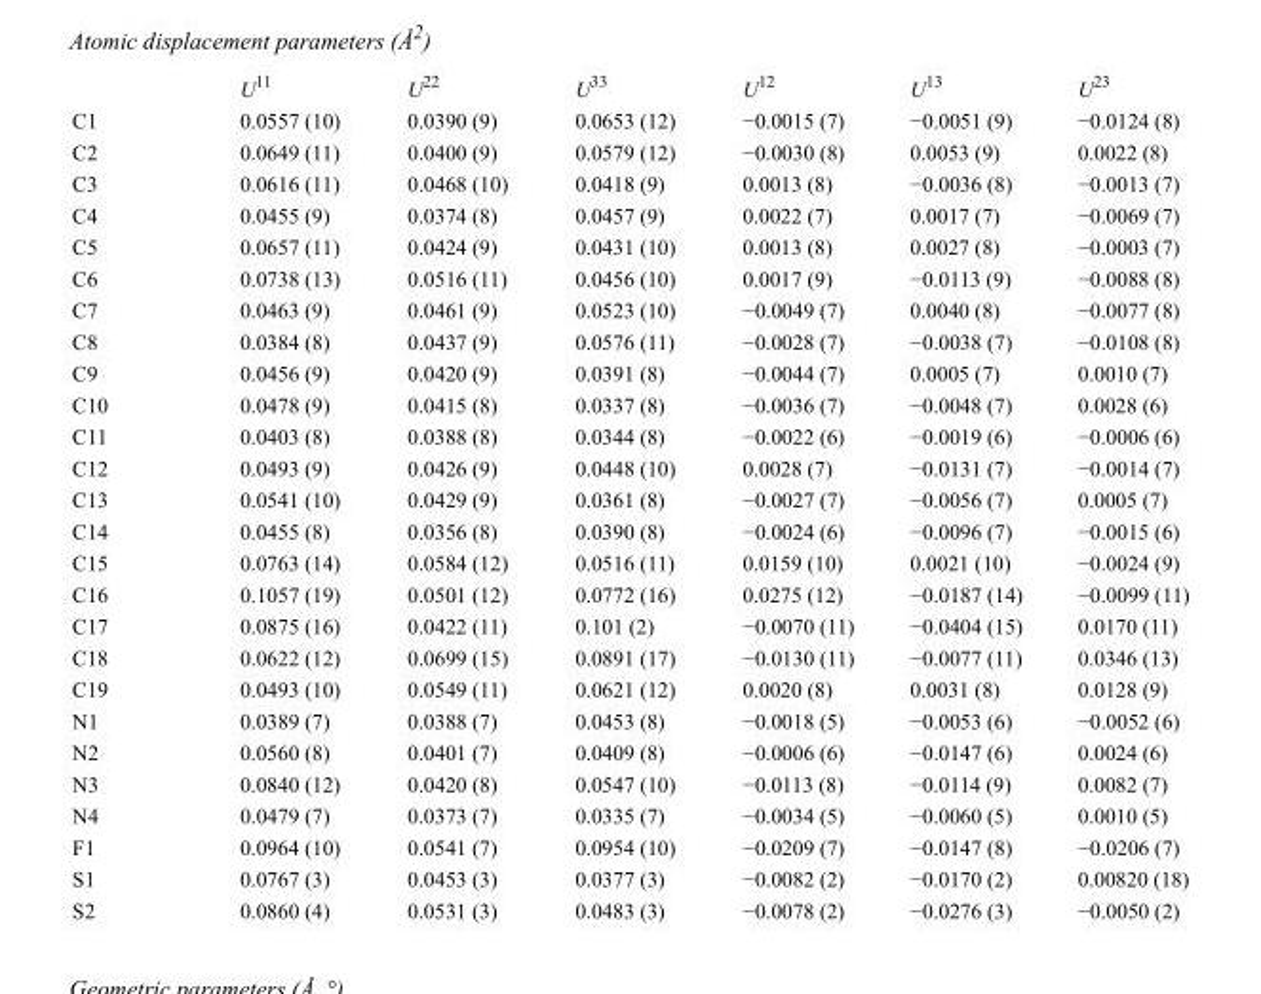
<table><thead><tr><td></td><td>U<sup>11</sup></td><td>U<sup>22</sup></td><td>U<sup>33</sup></td><td>U<sup>12</sup></td><td>U<sup>13</sup></td><td>U<sup>23</sup></td></tr></thead><tbody><tr><td>C1</td><td>0.0557 (10)</td><td>0.0390 (9)</td><td>0.0653 (12)</td><td>−0.0015 (7)</td><td>−0.0051 (9)</td><td>−0.0124 (8)</td></tr><tr><td>C2</td><td>0.0649 (11)</td><td>0.0400 (9)</td><td>0.0579 (12)</td><td>−0.0030 (8)</td><td>0.0053 (9)</td><td>0.0022 (8)</td></tr><tr><td>C3</td><td>0.0616 (11)</td><td>0.0468 (10)</td><td>0.0418 (9)</td><td>0.0013 (8)</td><td>−0.0036 (8)</td><td>−0.0013 (7)</td></tr><tr><td>C4</td><td>0.0455 (9)</td><td>0.0374 (8)</td><td>0.0457 (9)</td><td>0.0022 (7)</td><td>0.0017 (7)</td><td>−0.0069 (7)</td></tr><tr><td>C5</td><td>0.0657 (11)</td><td>0.0424 (9)</td><td>0.0431 (10)</td><td>0.0013 (8)</td><td>0.0027 (8)</td><td>−0.0003 (7)</td></tr><tr><td>C6</td><td>0.0738 (13)</td><td>0.0516 (11)</td><td>0.0456 (10)</td><td>0.0017 (9)</td><td>−0.0113 (9)</td><td>−0.0088 (8)</td></tr><tr><td>C7</td><td>0.0463 (9)</td><td>0.0461 (9)</td><td>0.0523 (10)</td><td>−0.0049 (7)</td><td>0.0040 (8)</td><td>−0.0077 (8)</td></tr><tr><td>C8</td><td>0.0384 (8)</td><td>0.0437 (9)</td><td>0.0576 (11)</td><td>−0.0028 (7)</td><td>−0.0038 (7)</td><td>−0.0108 (8)</td></tr><tr><td>C9</td><td>0.0456 (9)</td><td>0.0420 (9)</td><td>0.0391 (8)</td><td>−0.0044 (7)</td><td>0.0005 (7)</td><td>0.0010 (7)</td></tr><tr><td>C10</td><td>0.0478 (9)</td><td>0.0415 (8)</td><td>0.0337 (8)</td><td>−0.0036 (7)</td><td>−0.0048 (7)</td><td>0.0028 (6)</td></tr><tr><td>C11</td><td>0.0403 (8)</td><td>0.0388 (8)</td><td>0.0344 (8)</td><td>−0.0022 (6)</td><td>−0.0019 (6)</td><td>−0.0006 (6)</td></tr><tr><td>C12</td><td>0.0493 (9)</td><td>0.0426 (9)</td><td>0.0448 (10)</td><td>0.0028 (7)</td><td>−0.0131 (7)</td><td>−0.0014 (7)</td></tr><tr><td>C13</td><td>0.0541 (10)</td><td>0.0429 (9)</td><td>0.0361 (8)</td><td>−0.0027 (7)</td><td>−0.0056 (7)</td><td>0.0005 (7)</td></tr><tr><td>C14</td><td>0.0455 (8)</td><td>0.0356 (8)</td><td>0.0390 (8)</td><td>−0.0024 (6)</td><td>−0.0096 (7)</td><td>−0.0015 (6)</td></tr><tr><td>C15</td><td>0.0763 (14)</td><td>0.0584 (12)</td><td>0.0516 (11)</td><td>0.0159 (10)</td><td>0.0021 (10)</td><td>−0.0024 (9)</td></tr><tr><td>C16</td><td>0.1057 (19)</td><td>0.0501 (12)</td><td>0.0772 (16)</td><td>0.0275 (12)</td><td>−0.0187 (14)</td><td>−0.0099 (11)</td></tr><tr><td>C17</td><td>0.0875 (16)</td><td>0.0422 (11)</td><td>0.101 (2)</td><td>−0.0070 (11)</td><td>−0.0404 (15)</td><td>0.0170 (11)</td></tr><tr><td>C18</td><td>0.0622 (12)</td><td>0.0699 (15)</td><td>0.0891 (17)</td><td>−0.0130 (11)</td><td>−0.0077 (11)</td><td>0.0346 (13)</td></tr><tr><td>C19</td><td>0.0493 (10)</td><td>0.0549 (11)</td><td>0.0621 (12)</td><td>0.0020 (8)</td><td>0.0031 (8)</td><td>0.0128 (9)</td></tr><tr><td>N1</td><td>0.0389 (7)</td><td>0.0388 (7)</td><td>0.0453 (8)</td><td>−0.0018 (5)</td><td>−0.0053 (6)</td><td>−0.0052 (6)</td></tr><tr><td>N2</td><td>0.0560 (8)</td><td>0.0401 (7)</td><td>0.0409 (8)</td><td>−0.0006 (6)</td><td>−0.0147 (6)</td><td>0.0024 (6)</td></tr><tr><td>N3</td><td>0.0840 (12)</td><td>0.0420 (8)</td><td>0.0547 (10)</td><td>−0.0113 (8)</td><td>−0.0114 (9)</td><td>0.0082 (7)</td></tr><tr><td>N4</td><td>0.0479 (7)</td><td>0.0373 (7)</td><td>0.0335 (7)</td><td>−0.0034 (5)</td><td>−0.0060 (5)</td><td>0.0010 (5)</td></tr><tr><td>F1</td><td>0.0964 (10)</td><td>0.0541 (7)</td><td>0.0954 (10)</td><td>−0.0209 (7)</td><td>−0.0147 (8)</td><td>−0.0206 (7)</td></tr><tr><td>S1</td><td>0.0767 (3)</td><td>0.0453 (3)</td><td>0.0377 (3)</td><td>−0.0082 (2)</td><td>−0.0170 (2)</td><td>0.00820 (18)</td></tr><tr><td>S2</td><td>0.0860 (4)</td><td>0.0531 (3)</td><td>0.0483 (3)</td><td>−0.0078 (2)</td><td>−0.0276 (3)</td><td>−0.0050 (2)</td></tr></tbody></table>